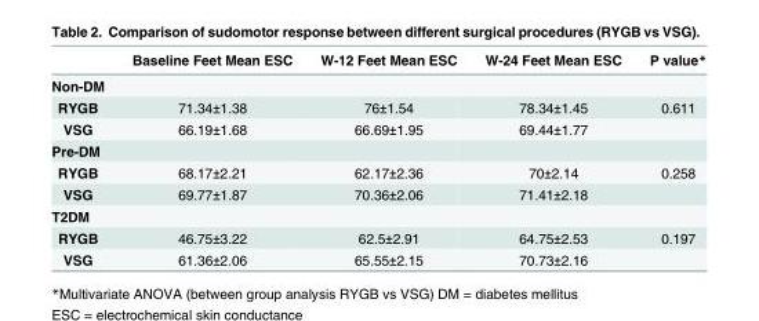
<table><thead><tr><td></td><td>Baseline Feet Mean ESC</td><td>W-12 Feet Mean ESC</td><td>W-24 Feet Mean ESC</td><td>P value*</td></tr></thead><tbody><tr><td colspan="5">Non-DM</td></tr><tr><td>RYGB</td><td>71.34±1.38</td><td>76±1.54</td><td>78.34±1.45</td><td>0.611</td></tr><tr><td>VSG</td><td>66.19±1.68</td><td>66.69±1.95</td><td>69.44±1.77</td><td></td></tr><tr><td colspan="5">Pre-DM</td></tr><tr><td>RYGB</td><td>68.17±2.21</td><td>62.17±2.36</td><td>70±2.14</td><td>0.258</td></tr><tr><td>VSG</td><td>69.77±1.87</td><td>70.36±2.06</td><td>71.41±2.18</td><td></td></tr><tr><td colspan="5">T2DM</td></tr><tr><td>RYGB</td><td>46.75±3.22</td><td>62.5±2.91</td><td>64.75±2.53</td><td>0.197</td></tr><tr><td>VSG</td><td>61.36±2.06</td><td>65.55±2.15</td><td>70.73±2.16</td><td></td></tr></tbody></table>